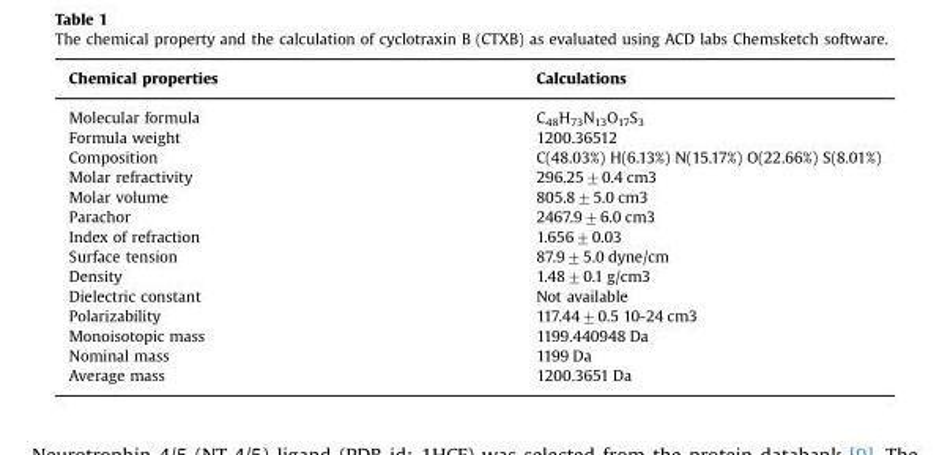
<table><thead><tr><td>Chemical properties</td><td>Calculations</td></tr></thead><tbody><tr><td>Molecular formula</td><td>C<sub>48</sub>H<sub>73</sub>N<sub>13</sub>O<sub>17</sub>S<sub>3</sub></td></tr><tr><td>Formula weight</td><td>1200.36512</td></tr><tr><td>Composition</td><td>C(48.03%) H(6.13%) N(15.17%) O(22.66%) S(8.01%)</td></tr><tr><td>Molar refractivity</td><td>296.25±0.4 cm3</td></tr><tr><td>Molar volume</td><td>805.8±5.0 cm3</td></tr><tr><td>Parachor</td><td>2467.9±6.0 cm3</td></tr><tr><td>Index of refraction</td><td>1.656±0.03</td></tr><tr><td>Surface tension</td><td>87.9±5.0 dyne/cm</td></tr><tr><td>Density</td><td>1.48±0.1 g/cm3</td></tr><tr><td>Dielectric constant</td><td>Not available</td></tr><tr><td>Polarizability</td><td>117.44±0.5 10-24 cm3</td></tr><tr><td>Monoisotopic mass</td><td>1199.440948 Da</td></tr><tr><td>Nominal mass</td><td>1199 Da</td></tr><tr><td>Average mass</td><td>1200.3651 Da</td></tr></tbody></table>